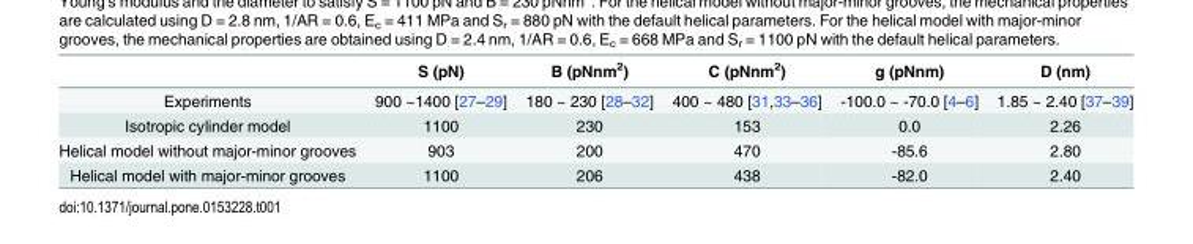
<table><thead><tr><td></td><td>S (pN)</td><td>B (pNnm<sup>2</sup>)</td><td>C (pNnm<sup>2</sup>)</td><td>g (pNnm)</td><td>D (nm)</td></tr></thead><tbody><tr><td>Experiments</td><td>900 ~1400 [27–29]</td><td>180 ~ 230 [28–32]</td><td>400 ~ 480 [31,33–36]</td><td>-100.0 ~ -70.0 [4–6]</td><td>1.85 ~ 2.40 [37–39]</td></tr><tr><td>Isotropic cylinder model</td><td>1100</td><td>230</td><td>153</td><td>0.0</td><td>2.26</td></tr><tr><td>Helical model without major-minor grooves</td><td>903</td><td>200</td><td>470</td><td>-85.6</td><td>2.80</td></tr><tr><td>Helical model with major-minor grooves</td><td>1100</td><td>206</td><td>438</td><td>-82.0</td><td>2.40</td></tr></tbody></table>